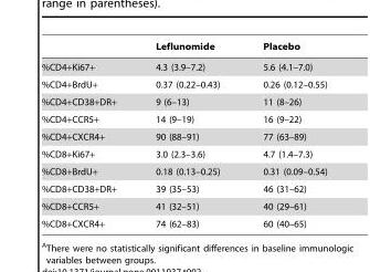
<table><thead><tr><td></td><td>Leflunomide</td><td>Placebo</td></tr></thead><tbody><tr><td>%CD4+Ki67+</td><td>4.3 (3.9–7.2)</td><td>5.6 (4.1–7.0)</td></tr><tr><td>%CD4+BrdU+</td><td>0.37 (0.22–0.43)</td><td>0.26 (0.12–0.55)</td></tr><tr><td>%CD4+CD38+DR+</td><td>9 (6–13)</td><td>11 (8–26)</td></tr><tr><td>%CD4+CCR5+</td><td>14 (9–19)</td><td>16 (9–22)</td></tr><tr><td>%CD4+CXCR4+</td><td>90 (88–91)</td><td>77 (63–89)</td></tr><tr><td>%CD8+Ki67+</td><td>3.0 (2.3–3.6)</td><td>4.7 (1.4–7.3)</td></tr><tr><td>%CD8+BrdU+</td><td>0.18 (0.13–0.25)</td><td>0.31 (0.09–0.54)</td></tr><tr><td>%CD8+CD38+DR+</td><td>39 (35–53)</td><td>46 (31–62)</td></tr><tr><td>%CD8+CCR5+</td><td>41 (32–51)</td><td>40 (29–61)</td></tr><tr><td>%CD8+CXCR4+</td><td>74 (62–83)</td><td>60 (40–65)</td></tr></tbody></table>